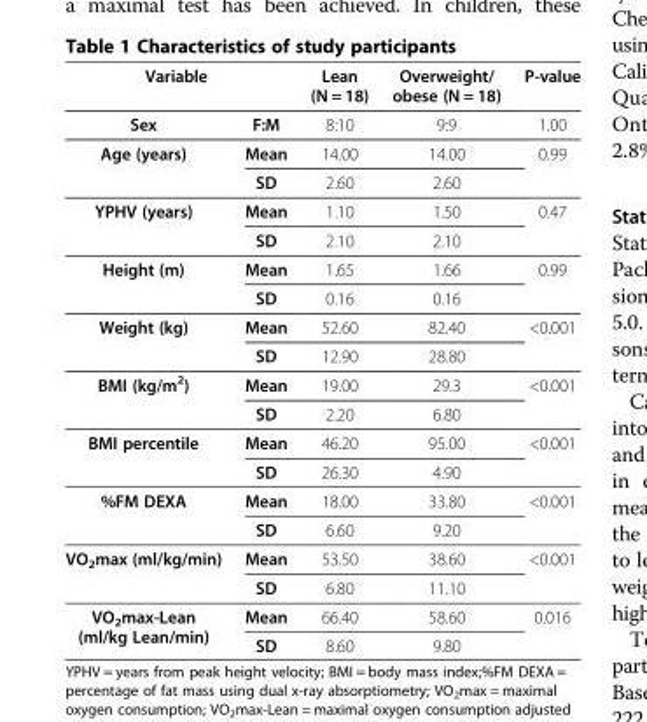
<table><thead><tr><td>Variable</td><td></td><td>Lean (N = 18)</td><td>Overweight/ obese (N = 18)</td><td>P-value</td></tr></thead><tbody><tr><td>Sex</td><td>F:M</td><td>8:10</td><td>9:9</td><td>1.00</td></tr><tr><td rowspan="2">Age (years)</td><td>Mean</td><td>14.00</td><td>14.00</td><td rowspan="2">0.99</td></tr><tr><td>SD</td><td>2.60</td><td>2.60</td></tr><tr><td rowspan="2">YPHV (years)</td><td>Mean</td><td>1.10</td><td>1.50</td><td rowspan="2">0.47</td></tr><tr><td>SD</td><td>2.10</td><td>2.10</td></tr><tr><td rowspan="2">Height (m)</td><td>Mean</td><td>1.65</td><td>1.66</td><td rowspan="2">0.99</td></tr><tr><td>SD</td><td>0.16</td><td>0.16</td></tr><tr><td rowspan="2">Weight (kg)</td><td>Mean</td><td>52.60</td><td>82.40</td><td rowspan="2">&lt;0.001</td></tr><tr><td>SD</td><td>12.90</td><td>28.80</td></tr><tr><td rowspan="2">BMI (kg/m<sup>2</sup>)</td><td>Mean</td><td>19.00</td><td>29.3</td><td rowspan="2">&lt;0.001</td></tr><tr><td>SD</td><td>2.20</td><td>6.80</td></tr><tr><td rowspan="2">BMI percentile</td><td>Mean</td><td>46.20</td><td>95.00</td><td rowspan="2">&lt;0.001</td></tr><tr><td>SD</td><td>26.30</td><td>4.90</td></tr><tr><td rowspan="2">%FM DEXA</td><td>Mean</td><td>18.00</td><td>33.80</td><td rowspan="2">&lt;0.001</td></tr><tr><td>SD</td><td>6.60</td><td>9.20</td></tr><tr><td rowspan="2">VO<sub>2</sub>max (ml/kg/min)</td><td>Mean</td><td>53.50</td><td>38.60</td><td rowspan="2">&lt;0.001</td></tr><tr><td>SD</td><td>6.80</td><td>11.10</td></tr><tr><td rowspan="2">VO<sub>2</sub>max-Lean (ml/kg Lean/min)</td><td>Mean</td><td>66.40</td><td>58.60</td><td rowspan="2">0.016</td></tr><tr><td>SD</td><td>8.60</td><td>9.80</td></tr></tbody></table>